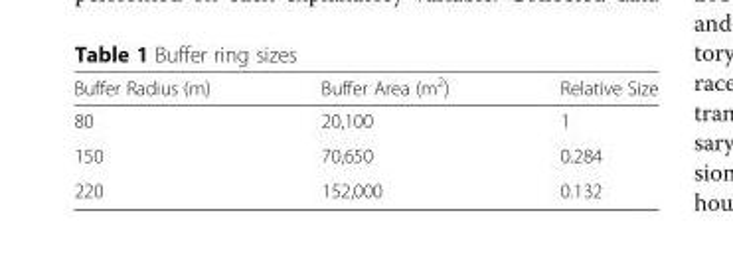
<table><thead><tr><td>Buffer Radius (m)</td><td>Buffer Area (m<sup>2</sup>)</td><td>Relative Size</td></tr></thead><tbody><tr><td>80</td><td>20,100</td><td>1</td></tr><tr><td>150</td><td>70,650</td><td>0.284</td></tr><tr><td>220</td><td>152,000</td><td>0.132</td></tr></tbody></table>